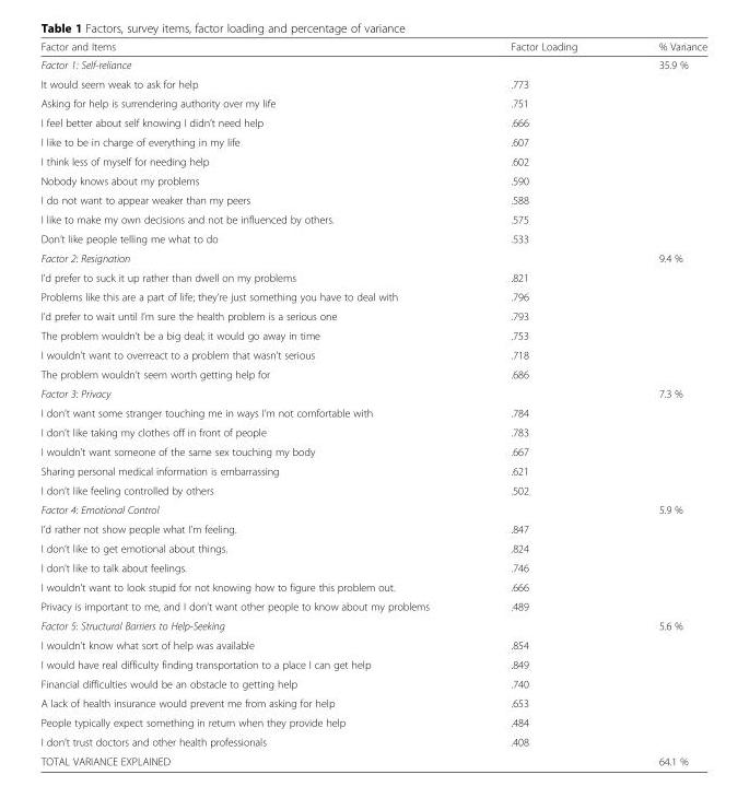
<table><thead><tr><td>Factor and Items</td><td>Factor Loading</td><td>% Variance</td></tr></thead><tbody><tr><td>Factor 1: Self-reliance</td><td></td><td>35.9 %</td></tr><tr><td>It would seem weak to ask for help</td><td>.773</td><td></td></tr><tr><td>Asking for help is surrendering authority over my life</td><td>.751</td><td></td></tr><tr><td>I feel better about self knowing I didn’t need help</td><td>.666</td><td></td></tr><tr><td>I like to be in charge of everything in my life</td><td>.607</td><td></td></tr><tr><td>I think less of myself for needing help</td><td>.602</td><td></td></tr><tr><td>Nobody knows about my problems</td><td>.590</td><td></td></tr><tr><td>I do not want to appear weaker than my peers</td><td>.588</td><td></td></tr><tr><td>I like to make my own decisions and not be influenced by others.</td><td>.575</td><td></td></tr><tr><td>Don’t like people telling me what to do</td><td>.533</td><td></td></tr><tr><td>Factor 2: Resignation</td><td></td><td>9.4 %</td></tr><tr><td>I’d prefer to suck it up rather than dwell on my problems</td><td>.821</td><td></td></tr><tr><td>Problems like this are a part of life; they’re just something you have to deal with</td><td>.796</td><td></td></tr><tr><td>I’d prefer to wait until I’m sure the health problem is a serious one</td><td>.793</td><td></td></tr><tr><td>The problem wouldn’t be a big deal; it would go away in time</td><td>.753</td><td></td></tr><tr><td>I wouldn’t want to overreact to a problem that wasn’t serious</td><td>.718</td><td></td></tr><tr><td>The problem wouldn’t seem worth getting help for</td><td>.686</td><td></td></tr><tr><td>Factor 3: Privacy</td><td></td><td>7.3 %</td></tr><tr><td>I don’t want some stranger touching me in ways I’m not comfortable with</td><td>.784</td><td></td></tr><tr><td>I don’t like taking my clothes off in front of people</td><td>.783</td><td></td></tr><tr><td>I wouldn’t want someone of the same sex touching my body</td><td>.667</td><td></td></tr><tr><td>Sharing personal medical information is embarrassing</td><td>.621</td><td></td></tr><tr><td>I don’t like feeling controlled by others</td><td>.502</td><td></td></tr><tr><td>Factor 4: Emotional Control</td><td></td><td>5.9 %</td></tr><tr><td>I’d rather not show people what I’m feeling.</td><td>.847</td><td></td></tr><tr><td>I don’t like to get emotional about things.</td><td>.824</td><td></td></tr><tr><td>I don’t like to talk about feelings.</td><td>.746</td><td></td></tr><tr><td>I wouldn’t want to look stupid for not knowing how to figure this problem out.</td><td>.666</td><td></td></tr><tr><td>Privacy is important to me, and I don’t want other people to know about my problems</td><td>.489</td><td></td></tr><tr><td>Factor 5: Structural Barriers to Help-Seeking</td><td></td><td>5.6 %</td></tr><tr><td>I wouldn’t know what sort of help was available</td><td>.854</td><td></td></tr><tr><td>I would have real difficulty finding transportation to a place I can get help</td><td>.849</td><td></td></tr><tr><td>Financial difficulties would be an obstacle to getting help</td><td>.740</td><td></td></tr><tr><td>A lack of health insurance would prevent me from asking for help</td><td>.653</td><td></td></tr><tr><td>People typically expect something in return when they provide help</td><td>.484</td><td></td></tr><tr><td>I don’t trust doctors and other health professionals</td><td>.408</td><td></td></tr><tr><td>TOTAL VARIANCE EXPLAINED</td><td></td><td>64.1 %</td></tr></tbody></table>